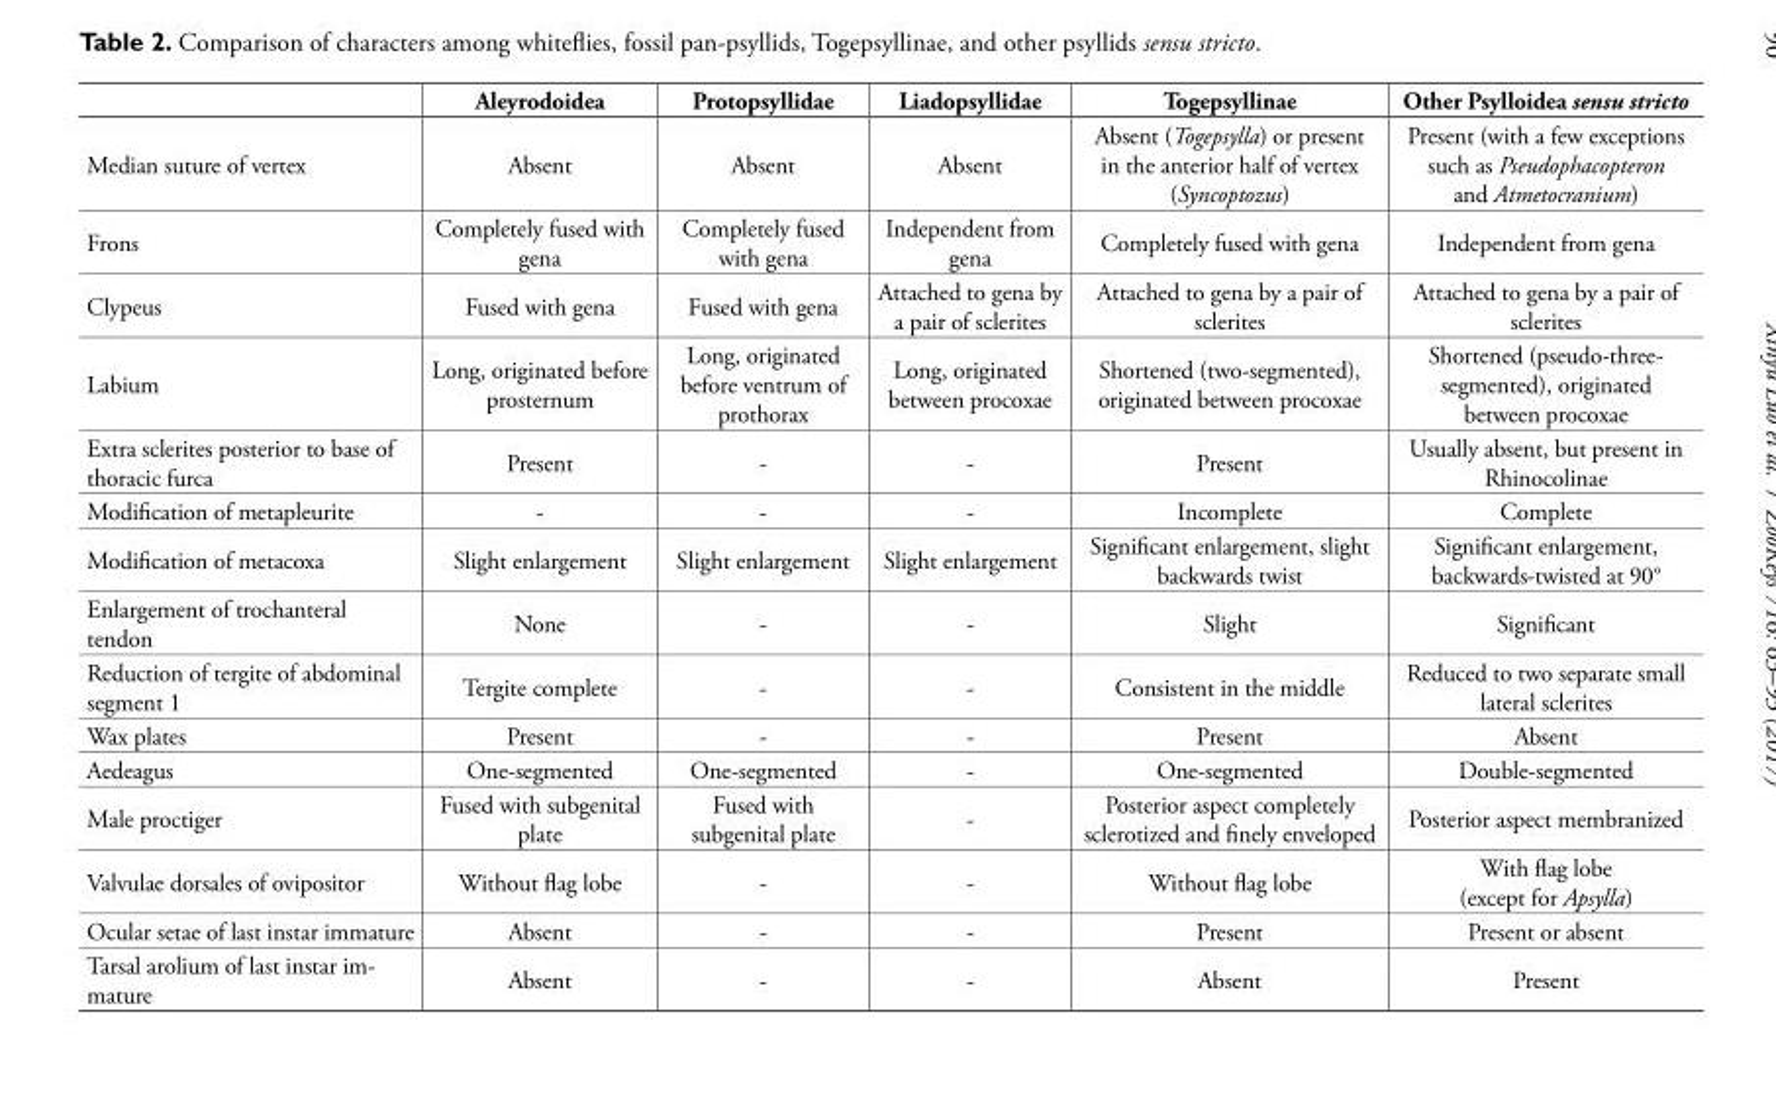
<table><thead><tr><td></td><td>Aleyrodoidea</td><td>Protopsyllidae</td><td>Liadopsyllidae</td><td>Togepsyllinae</td><td>Other Psylloidea sensu stricto</td></tr></thead><tbody><tr><td>Median suture of vertex</td><td>Absent</td><td>Absent</td><td>Absent</td><td>Absent (Togepsylla) or present in the anterior half of vertex (Syncoptozus)</td><td>Present (with a few exceptions such as Pseudophacopteron and Atmetocranium)</td></tr><tr><td>Frons</td><td>Completely fused with gena</td><td>Completely fused with gena</td><td>Independent from gena</td><td>Completely fused with gena</td><td>Independent from gena</td></tr><tr><td>Clypeus</td><td>Fused with gena</td><td>Fused with gena</td><td>Attached to gena by a pair of sclerites</td><td>Attached to gena by a pair of sclerites</td><td>Attached to gena by a pair of sclerites</td></tr><tr><td>Labium</td><td>Long, originated before prosternum</td><td>Long, originated before ventrum of prothorax</td><td>Long, originated between procoxae</td><td>Shortened (two-segmented), originated between procoxae</td><td>Shortened (pseudo-three- segmented), originated between procoxae</td></tr><tr><td>Extra sclerites posterior to base of thoracic furca</td><td>Present</td><td>-</td><td>-</td><td>Present</td><td>Usually absent, but present in Rhinocolinae</td></tr><tr><td>Modification of metapleurite</td><td>-</td><td>-</td><td>-</td><td>Incomplete</td><td>Complete</td></tr><tr><td>Modification of metacoxa</td><td>Slight enlargement</td><td>Slight enlargement</td><td>Slight enlargement</td><td>Significant enlargement, slight backwards twist</td><td>Significant enlargement, backwards-twisted at 90°</td></tr><tr><td>Enlargement of trochanteral tendon</td><td>None</td><td>-</td><td>-</td><td>Slight</td><td>Significant</td></tr><tr><td>Reduction of tergite of abdominal segment 1</td><td>Tergite complete</td><td>-</td><td>-</td><td>Consistent in the middle</td><td>Reduced to two separate small lateral sclerites</td></tr><tr><td>Wax plates</td><td>Present</td><td>-</td><td>-</td><td>Present</td><td>Absent</td></tr><tr><td>Aedeagus</td><td>One-segmented</td><td>One-segmented</td><td>-</td><td>One-segmented</td><td>Double-segmented</td></tr><tr><td>Male proctiger</td><td>Fused with subgenital plate</td><td>Fused with subgenital plate</td><td>-</td><td>Posterior aspect completely sclerotized and finely enveloped</td><td>Posterior aspect membranized</td></tr><tr><td>Valvulae dorsales of ovipositor</td><td>Without flag lobe</td><td>-</td><td>-</td><td>Without flag lobe</td><td>With flag lobe (except for Apsylla)</td></tr><tr><td>Ocular setae of last instar immature</td><td>Absent</td><td>-</td><td>-</td><td>Present</td><td>Present or absent</td></tr><tr><td>Tarsal arolium of last instar im- mature</td><td>Absent</td><td>-</td><td>-</td><td>Absent</td><td>Present</td></tr></tbody></table>